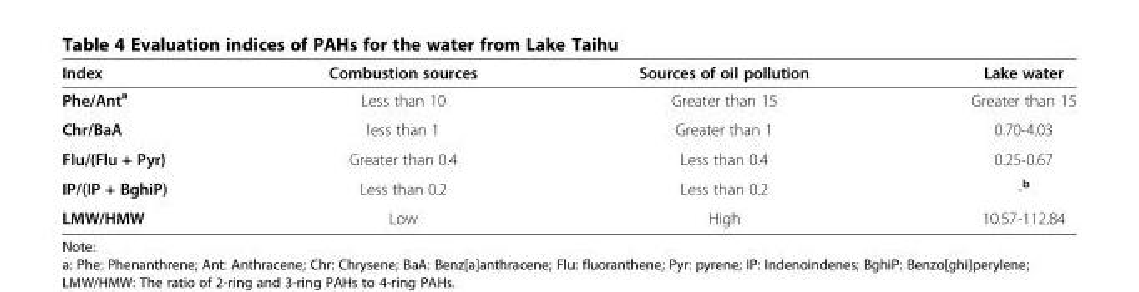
<table><thead><tr><td>Index</td><td>Combustion sources</td><td>Sources of oil pollution</td><td>Lake water</td></tr></thead><tbody><tr><td>Phe/Ant<sup>a</sup></td><td>Less than 10</td><td>Greater than 15</td><td>Greater than 15</td></tr><tr><td>Chr/BaA</td><td>less than 1</td><td>Greater than 1</td><td>0.70-4.03</td></tr><tr><td>Flu/(Flu + Pyr)</td><td>Greater than 0.4</td><td>Less than 0.4</td><td>0.25-0.67</td></tr><tr><td>IP/(IP + BghiP)</td><td>Less than 0.2</td><td>Less than 0.2</td><td>-<sup>b</sup></td></tr><tr><td>LMW/HMW</td><td>Low</td><td>High</td><td>10.57-112.84</td></tr></tbody></table>